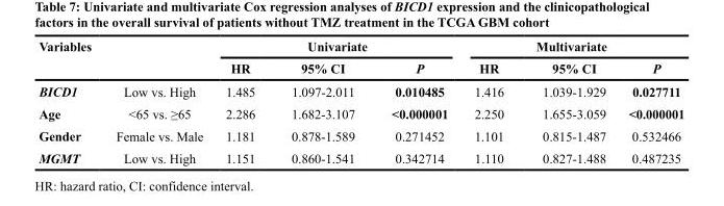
<table><thead><tr><td rowspan="2">Variables</td><td rowspan="2"></td><td colspan="3">Univariate</td><td colspan="3">Multivariate</td></tr><tr><td>HR</td><td>95% CI</td><td>P</td><td>HR</td><td>95% CI</td><td>P</td></tr></thead><tbody><tr><td>BICD1</td><td>Low vs. High</td><td>1.485</td><td>1.097-2.011</td><td>0.010485</td><td>1.416</td><td>1.039-1.929</td><td>0.027711</td></tr><tr><td>Age</td><td>&lt;65 vs. ≥65</td><td>2.286</td><td>1.682-3.107</td><td>&lt;0.000001</td><td>2.250</td><td>1.655-3.059</td><td>&lt;0.000001</td></tr><tr><td>Gender</td><td>Female vs. Male</td><td>1.181</td><td>0.878-1.589</td><td>0.271452</td><td>1.101</td><td>0.815-1.487</td><td>0.532466</td></tr><tr><td>MGMT</td><td>Low vs. High</td><td>1.151</td><td>0.860-1.541</td><td>0.342714</td><td>1.110</td><td>0.827-1.488</td><td>0.487235</td></tr></tbody></table>